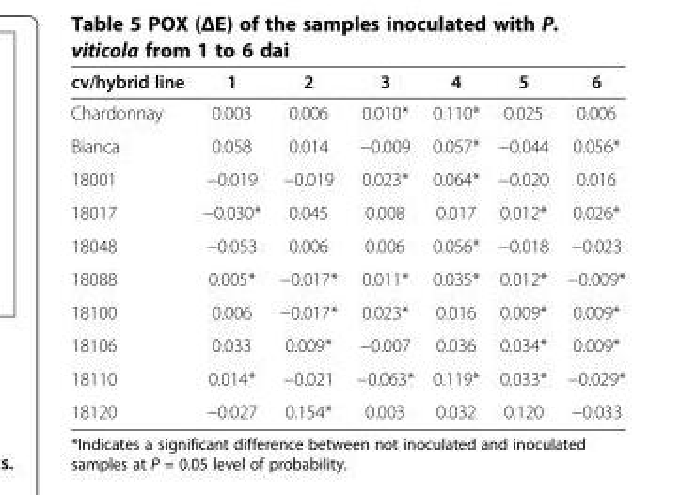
<table><thead><tr><td>cv/hybrid line</td><td>1</td><td>2</td><td>3</td><td>4</td><td>5</td><td>6</td></tr></thead><tbody><tr><td>Chardonnay</td><td>0.003</td><td>0.006</td><td>0.010*</td><td>0.110*</td><td>0.025</td><td>0.006</td></tr><tr><td>Bianca</td><td>0.058</td><td>0.014</td><td>−0.009</td><td>0.057*</td><td>−0.044</td><td>0.056*</td></tr><tr><td>18001</td><td>−0.019</td><td>−0.019</td><td>0.023*</td><td>0.064*</td><td>−0.020</td><td>0.016</td></tr><tr><td>18017</td><td>−0.030*</td><td>0.045</td><td>0.008</td><td>0.017</td><td>0.012*</td><td>0.026*</td></tr><tr><td>18048</td><td>−0.053</td><td>0.006</td><td>0.006</td><td>0.056*</td><td>−0.018</td><td>−0.023</td></tr><tr><td>18088</td><td>0.005*</td><td>−0.017*</td><td>0.011*</td><td>0.035*</td><td>0.012*</td><td>−0.009*</td></tr><tr><td>18100</td><td>0.006</td><td>−0.017*</td><td>0.023*</td><td>0.016</td><td>0.009*</td><td>0.009*</td></tr><tr><td>18106</td><td>0.033</td><td>0.009*</td><td>−0.007</td><td>0.036</td><td>0.034*</td><td>0.009*</td></tr><tr><td>18110</td><td>0.014*</td><td>−0.021</td><td>−0.063*</td><td>0.119*</td><td>0.033*</td><td>−0.029*</td></tr><tr><td>18120</td><td>−0.027</td><td>0.154*</td><td>0.003</td><td>0.032</td><td>0.120</td><td>−0.033</td></tr></tbody></table>